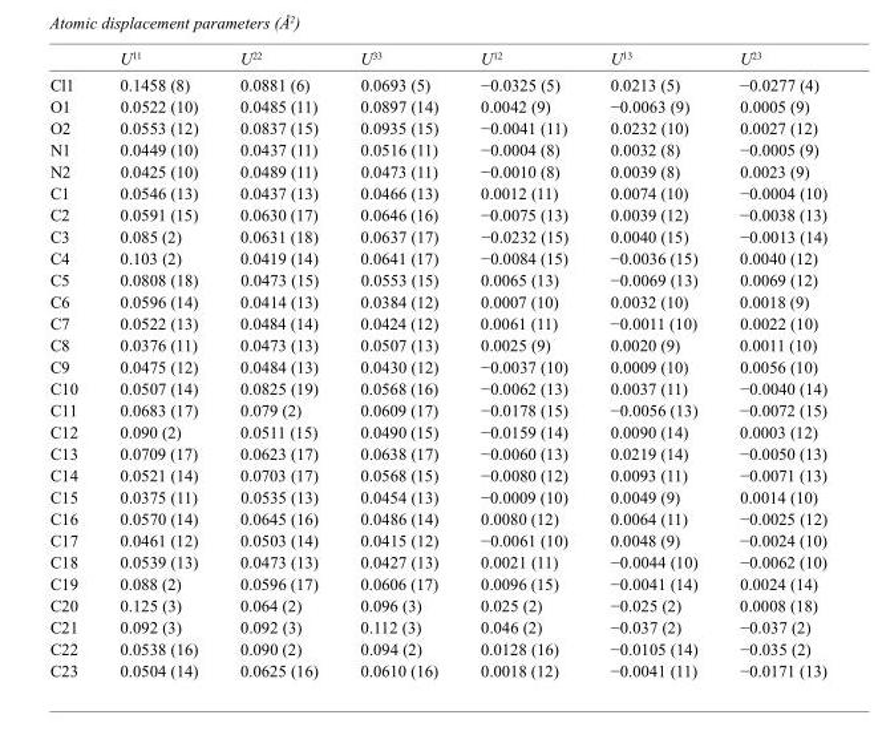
<table><thead><tr><td></td><td>U<sup>11</sup></td><td>U<sup>22</sup></td><td>U<sup>33</sup></td><td>U<sup>12</sup></td><td>U<sup>13</sup></td><td>U<sup>23</sup></td></tr></thead><tbody><tr><td>Cl1</td><td>0.1458 (8)</td><td>0.0881 (6)</td><td>0.0693 (5)</td><td>−0.0325 (5)</td><td>0.0213 (5)</td><td>−0.0277 (4)</td></tr><tr><td>O1</td><td>0.0522 (10)</td><td>0.0485 (11)</td><td>0.0897 (14)</td><td>0.0042 (9)</td><td>−0.0063 (9)</td><td>0.0005 (9)</td></tr><tr><td>O2</td><td>0.0553 (12)</td><td>0.0837 (15)</td><td>0.0935 (15)</td><td>−0.0041 (11)</td><td>0.0232 (10)</td><td>0.0027 (12)</td></tr><tr><td>N1</td><td>0.0449 (10)</td><td>0.0437 (11)</td><td>0.0516 (11)</td><td>−0.0004 (8)</td><td>0.0032 (8)</td><td>−0.0005 (9)</td></tr><tr><td>N2</td><td>0.0425 (10)</td><td>0.0489 (11)</td><td>0.0473 (11)</td><td>−0.0010 (8)</td><td>0.0039 (8)</td><td>0.0023 (9)</td></tr><tr><td>C1</td><td>0.0546 (13)</td><td>0.0437 (13)</td><td>0.0466 (13)</td><td>0.0012 (11)</td><td>0.0074 (10)</td><td>−0.0004 (10)</td></tr><tr><td>C2</td><td>0.0591 (15)</td><td>0.0630 (17)</td><td>0.0646 (16)</td><td>−0.0075 (13)</td><td>0.0039 (12)</td><td>−0.0038 (13)</td></tr><tr><td>C3</td><td>0.085 (2)</td><td>0.0631 (18)</td><td>0.0637 (17)</td><td>−0.0232 (15)</td><td>0.0040 (15)</td><td>−0.0013 (14)</td></tr><tr><td>C4</td><td>0.103 (2)</td><td>0.0419 (14)</td><td>0.0641 (17)</td><td>−0.0084 (15)</td><td>−0.0036 (15)</td><td>0.0040 (12)</td></tr><tr><td>C5</td><td>0.0808 (18)</td><td>0.0473 (15)</td><td>0.0553 (15)</td><td>0.0065 (13)</td><td>−0.0069 (13)</td><td>0.0069 (12)</td></tr><tr><td>C6</td><td>0.0596 (14)</td><td>0.0414 (13)</td><td>0.0384 (12)</td><td>0.0007 (10)</td><td>0.0032 (10)</td><td>0.0018 (9)</td></tr><tr><td>C7</td><td>0.0522 (13)</td><td>0.0484 (14)</td><td>0.0424 (12)</td><td>0.0061 (11)</td><td>−0.0011 (10)</td><td>0.0022 (10)</td></tr><tr><td>C8</td><td>0.0376 (11)</td><td>0.0473 (13)</td><td>0.0507 (13)</td><td>0.0025 (9)</td><td>0.0020 (9)</td><td>0.0011 (10)</td></tr><tr><td>C9</td><td>0.0475 (12)</td><td>0.0484 (13)</td><td>0.0430 (12)</td><td>−0.0037 (10)</td><td>0.0009 (10)</td><td>0.0056 (10)</td></tr><tr><td>C10</td><td>0.0507 (14)</td><td>0.0825 (19)</td><td>0.0568 (16)</td><td>−0.0062 (13)</td><td>0.0037 (11)</td><td>−0.0040 (14)</td></tr><tr><td>C11</td><td>0.0683 (17)</td><td>0.079 (2)</td><td>0.0609 (17)</td><td>−0.0178 (15)</td><td>−0.0056 (13)</td><td>−0.0072 (15)</td></tr><tr><td>C12</td><td>0.090 (2)</td><td>0.0511 (15)</td><td>0.0490 (15)</td><td>−0.0159 (14)</td><td>0.0090 (14)</td><td>0.0003 (12)</td></tr><tr><td>C13</td><td>0.0709 (17)</td><td>0.0623 (17)</td><td>0.0638 (17)</td><td>−0.0060 (13)</td><td>0.0219 (14)</td><td>−0.0050 (13)</td></tr><tr><td>C14</td><td>0.0521 (14)</td><td>0.0703 (17)</td><td>0.0568 (15)</td><td>−0.0080 (12)</td><td>0.0093 (11)</td><td>−0.0071 (13)</td></tr><tr><td>C15</td><td>0.0375 (11)</td><td>0.0535 (13)</td><td>0.0454 (13)</td><td>−0.0009 (10)</td><td>0.0049 (9)</td><td>0.0014 (10)</td></tr><tr><td>C16</td><td>0.0570 (14)</td><td>0.0645 (16)</td><td>0.0486 (14)</td><td>0.0080 (12)</td><td>0.0064 (11)</td><td>−0.0025 (12)</td></tr><tr><td>C17</td><td>0.0461 (12)</td><td>0.0503 (14)</td><td>0.0415 (12)</td><td>−0.0061 (10)</td><td>0.0048 (9)</td><td>−0.0024 (10)</td></tr><tr><td>C18</td><td>0.0539 (13)</td><td>0.0473 (13)</td><td>0.0427 (13)</td><td>0.0021 (11)</td><td>−0.0044 (10)</td><td>−0.0062 (10)</td></tr><tr><td>C19</td><td>0.088 (2)</td><td>0.0596 (17)</td><td>0.0606 (17)</td><td>0.0096 (15)</td><td>−0.0041 (14)</td><td>0.0024 (14)</td></tr><tr><td>C20</td><td>0.125 (3)</td><td>0.064 (2)</td><td>0.096 (3)</td><td>0.025 (2)</td><td>−0.025 (2)</td><td>0.0008 (18)</td></tr><tr><td>C21</td><td>0.092 (3)</td><td>0.092 (3)</td><td>0.112 (3)</td><td>0.046 (2)</td><td>−0.037 (2)</td><td>−0.037 (2)</td></tr><tr><td>C22</td><td>0.0538 (16)</td><td>0.090 (2)</td><td>0.094 (2)</td><td>0.0128 (16)</td><td>−0.0105 (14)</td><td>−0.035 (2)</td></tr><tr><td>C23</td><td>0.0504 (14)</td><td>0.0625 (16)</td><td>0.0610 (16)</td><td>0.0018 (12)</td><td>−0.0041 (11)</td><td>−0.0171 (13)</td></tr></tbody></table>